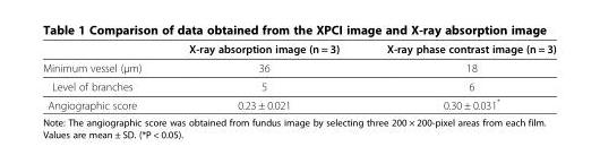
<table><thead><tr><td></td><td>X-ray absorption image (n = 3)</td><td>X-ray phase contrast image (n = 3)</td></tr></thead><tbody><tr><td>Minimum vessel (μm)</td><td>36</td><td>18</td></tr><tr><td>Level of branches</td><td>5</td><td>6</td></tr><tr><td>Angiographic score</td><td>0.23 ± 0.021</td><td>0.30 ± 0.031*</td></tr></tbody></table>